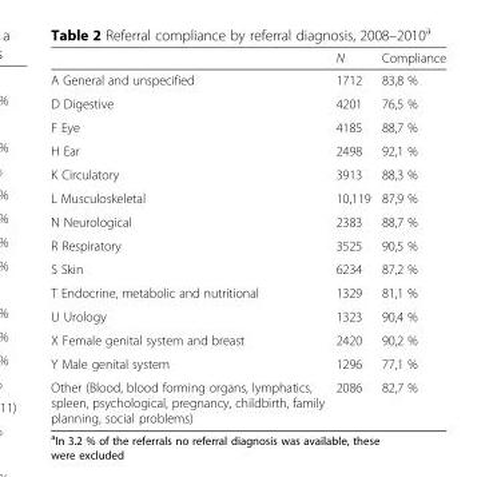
<table><thead><tr><td></td><td>N</td><td>Compliance</td></tr></thead><tbody><tr><td>A General and unspecified</td><td>1712</td><td>83,8 %</td></tr><tr><td>D Digestive</td><td>4201</td><td>76,5 %</td></tr><tr><td>F Eye</td><td>4185</td><td>88,7 %</td></tr><tr><td>H Ear</td><td>2498</td><td>92,1 %</td></tr><tr><td>K Circulatory</td><td>3913</td><td>88,3 %</td></tr><tr><td>L Musculoskeletal</td><td>10,119</td><td>87,9 %</td></tr><tr><td>N Neurological</td><td>2383</td><td>88,7 %</td></tr><tr><td>R Respiratory</td><td>3525</td><td>90,5 %</td></tr><tr><td>S Skin</td><td>6234</td><td>87,2 %</td></tr><tr><td>T Endocrine, metabolic and nutritional</td><td>1329</td><td>81,1 %</td></tr><tr><td>U Urology</td><td>1323</td><td>90,4 %</td></tr><tr><td>X Female genital system and breast</td><td>2420</td><td>90,2 %</td></tr><tr><td>Y Male genital system</td><td>1296</td><td>77,1 %</td></tr><tr><td>Other (Blood, blood forming organs, lymphatics, spleen, psychological, pregnancy, childbirth, family planning, social problems)</td><td>2086</td><td>82,7 %</td></tr></tbody></table>